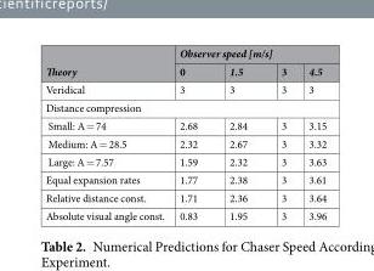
<table><thead><tr><td rowspan="2">Theory</td><td colspan="4">Observer speed [m/s]</td></tr><tr><td>0</td><td>1.5</td><td>3</td><td>4.5</td></tr></thead><tbody><tr><td>Veridical</td><td>3</td><td>3</td><td>3</td><td>3</td></tr><tr><td colspan="5">Distance compression</td></tr><tr><td>Small: A = 74</td><td>2.68</td><td>2.84</td><td>3</td><td>3.15</td></tr><tr><td>Medium: A = 28.5</td><td>2.32</td><td>2.67</td><td>3</td><td>3.32</td></tr><tr><td>Large: A = 7.57</td><td>1.59</td><td>2.32</td><td>3</td><td>3.63</td></tr><tr><td>Equal expansion rates</td><td>1.77</td><td>2.38</td><td>3</td><td>3.61</td></tr><tr><td>Relative distance const.</td><td>1.71</td><td>2.36</td><td>3</td><td>3.64</td></tr><tr><td>Absolute visual angle const.</td><td>0.83</td><td>1.95</td><td>3</td><td>3.96</td></tr></tbody></table>